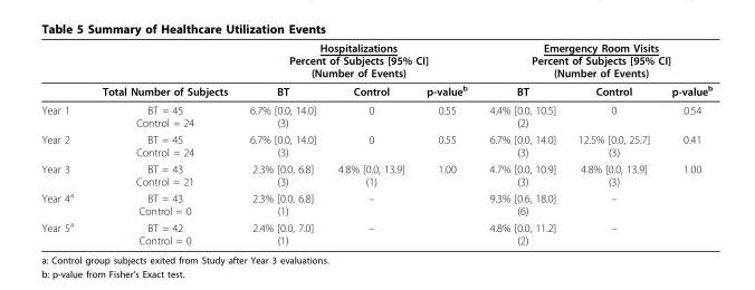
<table><thead><tr><td rowspan="2"></td><td rowspan="2">Total Number of Subjects</td><td colspan="3">Hospitalizations Percent of Subjects [95% CI] (Number of Events)</td><td colspan="3">Emergency Room Visits Percent of Subjects [95% CI] (Number of Events)</td></tr><tr><td>BT</td><td>Control</td><td>p-value<sup>b</sup></td><td>BT</td><td>Control</td><td>p-value<sup>b</sup></td></tr></thead><tbody><tr><td>Year 1</td><td>BT = 45 Control = 24</td><td>6.7% [0.0, 14.0] (3)</td><td>0</td><td>0.55</td><td>4.4% [0.0, 10.5] (2)</td><td>0</td><td>0.54</td></tr><tr><td>Year 2</td><td>BT = 45 Control = 24</td><td>6.7% [0.0, 14.0] (3)</td><td>0</td><td>0.55</td><td>6.7% [0.0, 14.0] (3)</td><td>12.5% [0.0, 25.7] (3)</td><td>0.41</td></tr><tr><td>Year 3</td><td>BT = 43 Control = 21</td><td>2.3% [0.0, 6.8] (3)</td><td>4.8% [0.0, 13.9] (1)</td><td>1.00</td><td>4.7% [0.0, 10.9] (3)</td><td>4.8% [0.0, 13.9] (3)</td><td>1.00</td></tr><tr><td>Year 4<sup>a</sup></td><td>BT = 43 Control = 0</td><td>2.3% [0.0, 6.8] (1)</td><td>–</td><td></td><td>9.3% [0.6, 18.0] (6)</td><td>–</td><td></td></tr><tr><td>Year 5<sup>a</sup></td><td>BT = 42 Control = 0</td><td>2.4% [0.0, 7.0] (1)</td><td>–</td><td></td><td>4.8% [0.0, 11.2] (2)</td><td>–</td><td></td></tr></tbody></table>